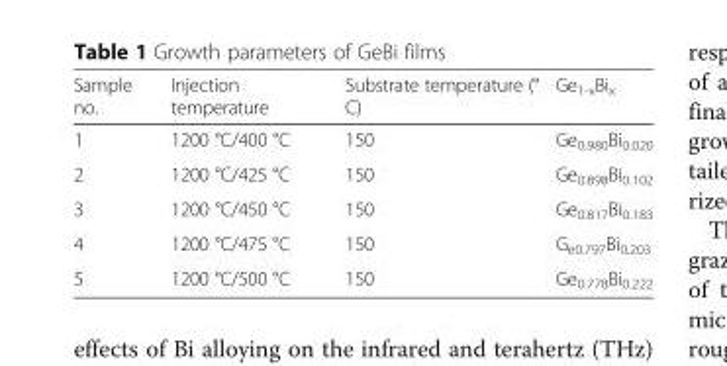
<table><thead><tr><td>Sample no.</td><td>Injection temperature</td><td>Substrate temperature (° C)</td><td>Ge<sub>1-x</sub>Bi<sub>x</sub></td></tr></thead><tbody><tr><td>1</td><td>1200 °C/400 °C</td><td>150</td><td>Ge<sub>0.980</sub>Bi<sub>0.020</sub></td></tr><tr><td>2</td><td>1200 °C/425 °C</td><td>150</td><td>Ge<sub>0.898</sub>Bi<sub>0.102</sub></td></tr><tr><td>3</td><td>1200 °C/450 °C</td><td>150</td><td>Ge<sub>0.817</sub>Bi<sub>0.183</sub></td></tr><tr><td>4</td><td>1200 °C/475 °C</td><td>150</td><td>G<sub>e0.797</sub>Bi<sub>0.203</sub></td></tr><tr><td>5</td><td>1200 °C/500 °C</td><td>150</td><td>Ge<sub>0.778</sub>Bi<sub>0.222</sub></td></tr></tbody></table>